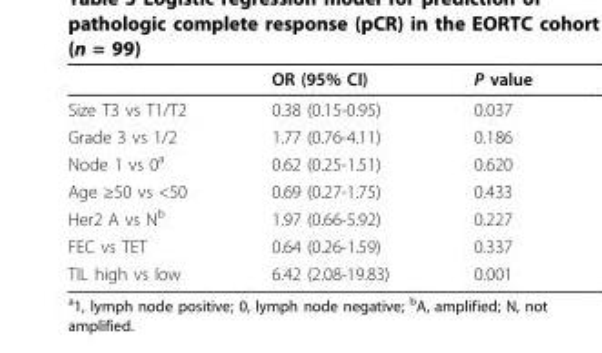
<table><thead><tr><td></td><td>OR (95% CI)</td><td>P value</td></tr></thead><tbody><tr><td>Size T3 vs T1/T2</td><td>0.38 (0.15-0.95)</td><td>0.037</td></tr><tr><td>Grade 3 vs 1/2</td><td>1.77 (0.76-4.11)</td><td>0.186</td></tr><tr><td>Node 1 vs 0<sup>a</sup></td><td>0.62 (0.25-1.51)</td><td>0.620</td></tr><tr><td>Age ≥50 vs &lt;50</td><td>0.69 (0.27-1.75)</td><td>0.433</td></tr><tr><td>Her2 A vs N<sup>b</sup></td><td>1.97 (0.66-5.92)</td><td>0.227</td></tr><tr><td>FEC vs TET</td><td>0.64 (0.26-1.59)</td><td>0.337</td></tr><tr><td>TIL high vs low</td><td>6.42 (2.08-19.83)</td><td>0.001</td></tr></tbody></table>